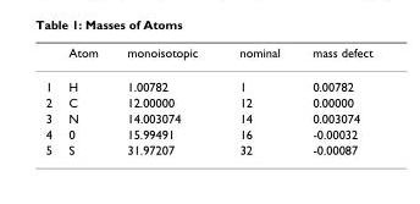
<table><thead><tr><td></td><td>Atom</td><td>monoisotopic</td><td>nominal</td><td>mass defect</td></tr></thead><tbody><tr><td>1</td><td>H</td><td>1.00782</td><td>1</td><td>0.00782</td></tr><tr><td>2</td><td>C</td><td>12.00000</td><td>12</td><td>0.00000</td></tr><tr><td>3</td><td>N</td><td>14.003074</td><td>14</td><td>0.003074</td></tr><tr><td>4</td><td>0</td><td>15.99491</td><td>16</td><td>-0.00032</td></tr><tr><td>5</td><td>S</td><td>31.97207</td><td>32</td><td>-0.00087</td></tr></tbody></table>